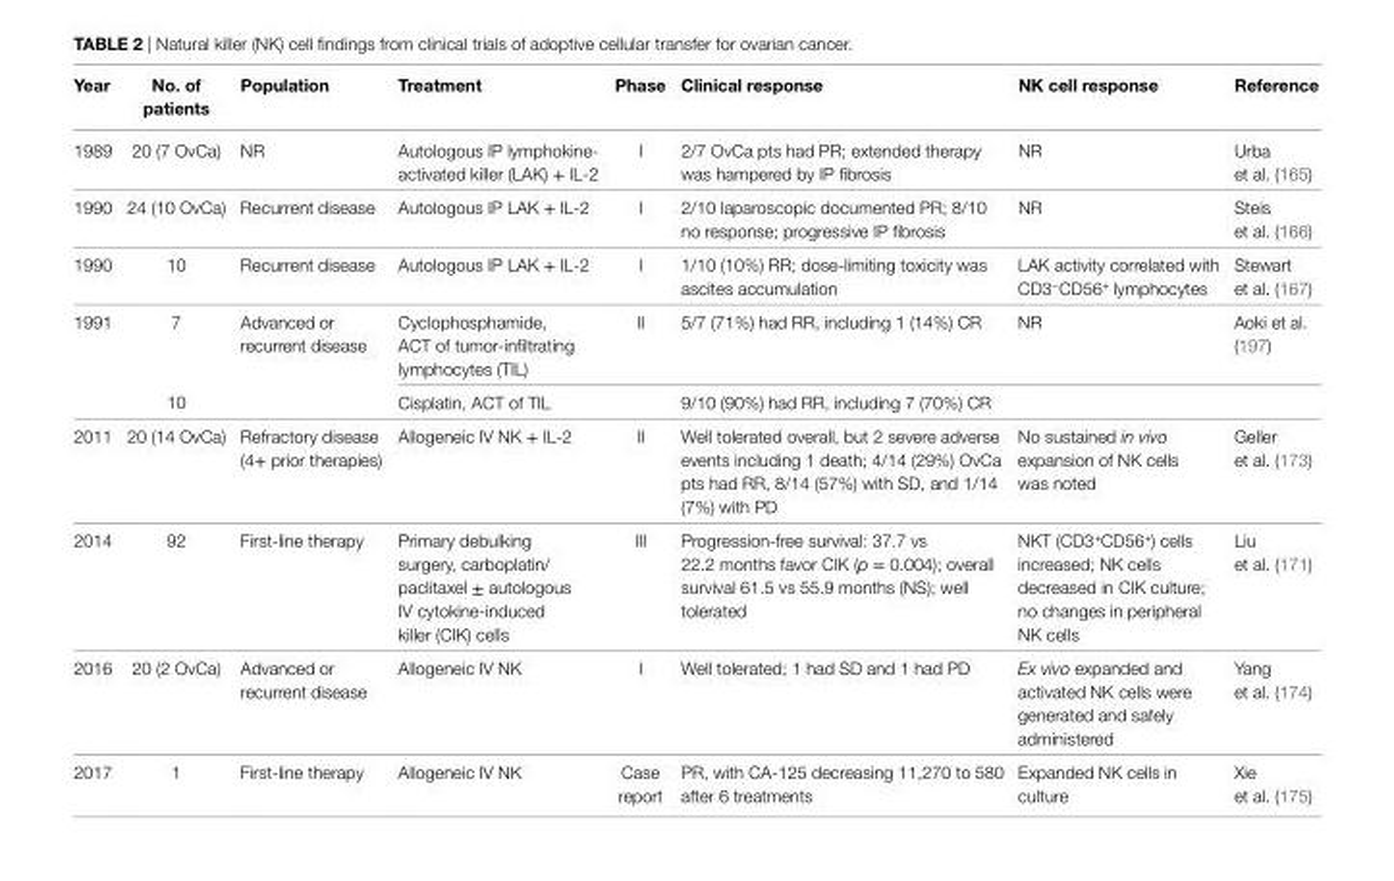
<table><thead><tr><td>Year</td><td>No. of patients</td><td>Population</td><td>Treatment</td><td>Phase</td><td>Clinical response</td><td>NK cell response</td><td>Reference</td></tr></thead><tbody><tr><td>1989</td><td>20 (7 OvCa)</td><td>NR</td><td>Autologous IP lymphokine- activated killer (LAK) + IL-2</td><td>I</td><td>2/7 OvCa pts had PR; extended therapy was hampered by IP fibrosis</td><td>NR</td><td>Urba et al. (165)</td></tr><tr><td>1990</td><td>24 (10 OvCa)</td><td>Recurrent disease</td><td>Autologous IP LAK + IL-2</td><td>I</td><td>2/10 laparoscopic documented PR; 8/10 no response; progressive IP fibrosis</td><td>NR</td><td>Steis et al. (166)</td></tr><tr><td>1990</td><td>10</td><td>Recurrent disease</td><td>Autologous IP LAK + IL-2</td><td>I</td><td>1/10 (10%) RR; dose-limiting toxicity was ascites accumulation</td><td>LAK activity correlated with CD3<sup>−</sup>CD56<sup>+</sup> lymphocytes</td><td>Stewart et al. (167)</td></tr><tr><td rowspan="2">1991</td><td>7</td><td rowspan="2">Advanced or recurrent disease</td><td>Cyclophosphamide, ACT of tumor-infiltrating lymphocytes (TIL)</td><td>II</td><td>5/7 (71%) had RR, including 1 (14%) CR</td><td>NR</td><td>Aoki et al. (197)</td></tr><tr><td>10</td><td>Cisplatin, ACT of TIL</td><td></td><td>9/10 (90%) had RR, including 7 (70%) CR</td><td></td><td></td></tr><tr><td>2011</td><td>20 (14 OvCa)</td><td>Refractory disease (4+ prior therapies)</td><td>Allogeneic IV NK + IL-2</td><td>II</td><td>Well tolerated overall, but 2 severe adverse events including 1 death; 4/14 (29%) OvCa pts had RR, 8/14 (57%) with SD, and 1/14 (7%) with PD</td><td>No sustained in vivo expansion of NK cells was noted</td><td>Geller et al. (173)</td></tr><tr><td>2014</td><td>92</td><td>First-line therapy</td><td>Primary debulking surgery, carboplatin/ paclitaxel ± autologous IV cytokine-induced killer (CIK) cells</td><td>III</td><td>Progression-free survival: 37.7 vs 22.2 months favor CIK (p = 0.004); overall survival 61.5 vs 55.9 months (NS); well tolerated</td><td>NKT (CD3<sup>+</sup>CD56<sup>+</sup>) cells increased; NK cells decreased in CIK culture; no changes in peripheral NK cells</td><td>Liu et al. (171)</td></tr><tr><td>2016</td><td>20 (2 OvCa)</td><td>Advanced or recurrent disease</td><td>Allogeneic IV NK</td><td>I</td><td>Well tolerated; 1 had SD and 1 had PD</td><td>Ex vivo expanded and activated NK cells were generated and safely administered</td><td>Yang et al. (174)</td></tr><tr><td>2017</td><td>1</td><td>First-line therapy</td><td>Allogeneic IV NK</td><td>Case report</td><td>PR, with CA-125 decreasing 11,270 to 580 after 6 treatments</td><td>Expanded NK cells in culture</td><td>Xie et al. (175)</td></tr></tbody></table>